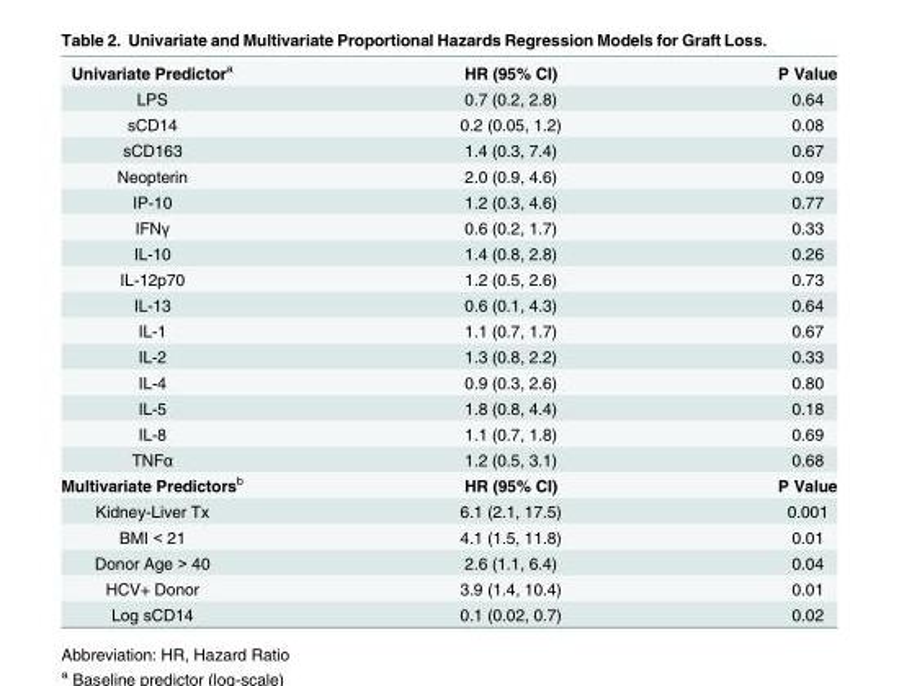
<table><tbody><tr><td>Univariate Predictor<sup>a</sup></td><td>HR (95% CI)</td><td>P Value</td></tr><tr><td>LPS</td><td>0.7 (0.2, 2.8)</td><td>0.64</td></tr><tr><td>sCD14</td><td>0.2 (0.05, 1.2)</td><td>0.08</td></tr><tr><td>sCD163</td><td>1.4 (0.3, 7.4)</td><td>0.67</td></tr><tr><td>Neopterin</td><td>2.0 (0.9, 4.6)</td><td>0.09</td></tr><tr><td>IP-10</td><td>1.2 (0.3, 4.6)</td><td>0.77</td></tr><tr><td>IFNγ</td><td>0.6 (0.2, 1.7)</td><td>0.33</td></tr><tr><td>IL-10</td><td>1.4 (0.8, 2.8)</td><td>0.26</td></tr><tr><td>IL-12p70</td><td>1.2 (0.5, 2.6)</td><td>0.73</td></tr><tr><td>IL-13</td><td>0.6 (0.1, 4.3)</td><td>0.64</td></tr><tr><td>IL-1</td><td>1.1 (0.7, 1.7)</td><td>0.67</td></tr><tr><td>IL-2</td><td>1.3 (0.8, 2.2)</td><td>0.33</td></tr><tr><td>IL-4</td><td>0.9 (0.3, 2.6)</td><td>0.80</td></tr><tr><td>IL-5</td><td>1.8 (0.8, 4.4)</td><td>0.18</td></tr><tr><td>IL-8</td><td>1.1 (0.7, 1.8)</td><td>0.69</td></tr><tr><td>TNFα</td><td>1.2 (0.5, 3.1)</td><td>0.68</td></tr><tr><td>Multivariate Predictors<sup>b</sup></td><td>HR (95% CI)</td><td>P Value</td></tr><tr><td>Kidney-Liver Tx</td><td>6.1 (2.1, 17.5)</td><td>0.001</td></tr><tr><td>BMI &lt; 21</td><td>4.1 (1.5, 11.8)</td><td>0.01</td></tr><tr><td>Donor Age &gt; 40</td><td>2.6 (1.1, 6.4)</td><td>0.04</td></tr><tr><td>HCV+ Donor</td><td>3.9 (1.4, 10.4)</td><td>0.01</td></tr><tr><td>Log sCD14</td><td>0.1 (0.02, 0.7)</td><td>0.02</td></tr></tbody></table>